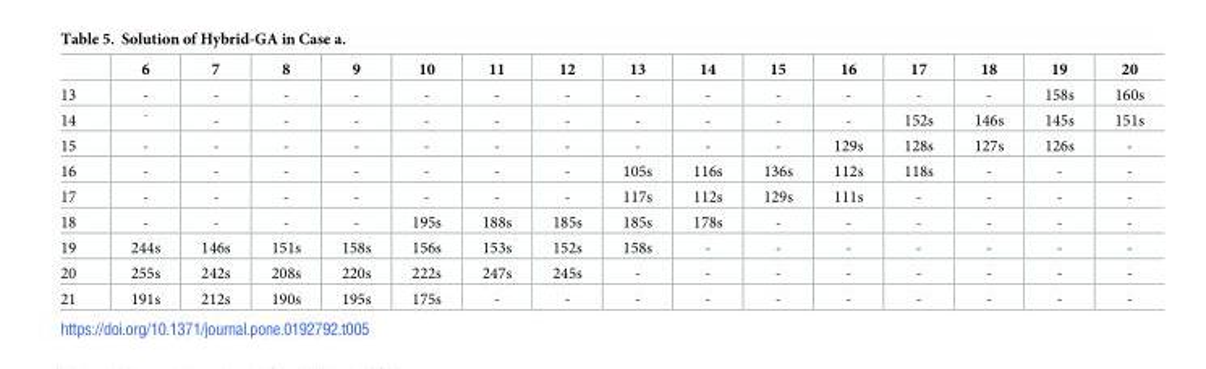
<table><thead><tr><td></td><td>6</td><td>7</td><td>8</td><td>9</td><td>10</td><td>11</td><td>12</td><td>13</td><td>14</td><td>15</td><td>16</td><td>17</td><td>18</td><td>19</td><td>20</td></tr></thead><tbody><tr><td>13</td><td>-</td><td>-</td><td>-</td><td>-</td><td>-</td><td>-</td><td>-</td><td>-</td><td>-</td><td>-</td><td>-</td><td>-</td><td>-</td><td>158s</td><td>160s</td></tr><tr><td>14</td><td><sup>-</sup></td><td>-</td><td>-</td><td>-</td><td>-</td><td>-</td><td>-</td><td>-</td><td>-</td><td>-</td><td>-</td><td>152s</td><td>146s</td><td>145s</td><td>151s</td></tr><tr><td>15</td><td>-</td><td>-</td><td>-</td><td>-</td><td>-</td><td>-</td><td>-</td><td>-</td><td>-</td><td>-</td><td>129s</td><td>128s</td><td>127s</td><td>126s</td><td>-</td></tr><tr><td>16</td><td>-</td><td>-</td><td>-</td><td>-</td><td>-</td><td>-</td><td>-</td><td>105s</td><td>116s</td><td>136s</td><td>112s</td><td>118s</td><td>-</td><td>-</td><td>-</td></tr><tr><td>17</td><td>-</td><td>-</td><td>-</td><td>-</td><td>-</td><td>-</td><td>-</td><td>117s</td><td>112s</td><td>129s</td><td>111s</td><td>-</td><td>-</td><td>-</td><td>-</td></tr><tr><td>18</td><td>-</td><td>-</td><td>-</td><td>-</td><td>195s</td><td>188s</td><td>185s</td><td>185s</td><td>178s</td><td>-</td><td>-</td><td>-</td><td>-</td><td>-</td><td>-</td></tr><tr><td>19</td><td>244s</td><td>146s</td><td>151s</td><td>158s</td><td>156s</td><td>153s</td><td>152s</td><td>158s</td><td>-</td><td>-</td><td>-</td><td>-</td><td>-</td><td>-</td><td>-</td></tr><tr><td>20</td><td>255s</td><td>242s</td><td>208s</td><td>220s</td><td>222s</td><td>247s</td><td>245s</td><td>-</td><td>-</td><td>-</td><td>-</td><td>-</td><td>-</td><td>-</td><td>-</td></tr><tr><td>21</td><td>191s</td><td>212s</td><td>190s</td><td>195s</td><td>175s</td><td>-</td><td>-</td><td>-</td><td>-</td><td>-</td><td>-</td><td>-</td><td>-</td><td>-</td><td>-</td></tr></tbody></table>